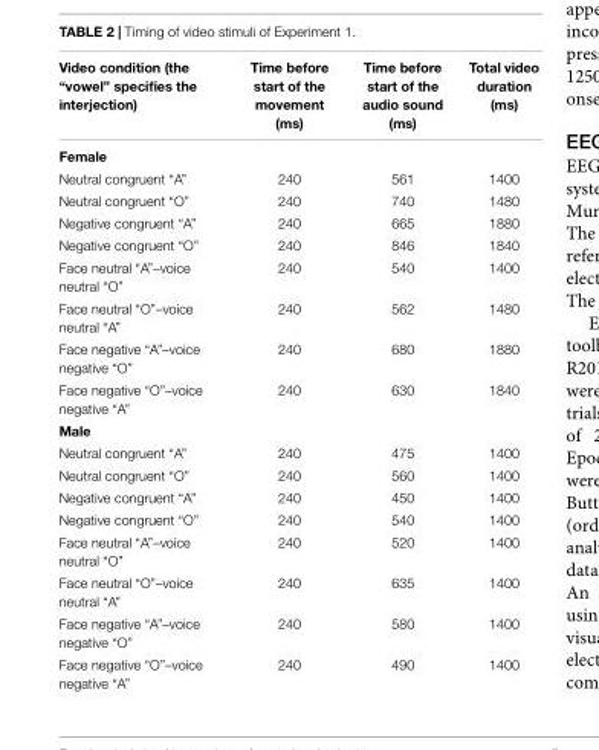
<table><thead><tr><td>Video condition (the “vowel” specifies the interjection)</td><td>Time before start of the movement (ms)</td><td>Time before start of the audio sound (ms)</td><td>Total video duration (ms)</td></tr></thead><tbody><tr><td colspan="4">Female</td></tr><tr><td>Neutral congruent “A”</td><td>240</td><td>561</td><td>1400</td></tr><tr><td>Neutral congruent “O”</td><td>240</td><td>740</td><td>1480</td></tr><tr><td>Negative congruent “A”</td><td>240</td><td>665</td><td>1880</td></tr><tr><td>Negative congruent “O”</td><td>240</td><td>846</td><td>1840</td></tr><tr><td>Face neutral “A”–voice neutral “O”</td><td>240</td><td>540</td><td>1400</td></tr><tr><td>Face neutral “O”–voice neutral “A”</td><td>240</td><td>562</td><td>1480</td></tr><tr><td>Face negative “A”–voice negative “O”</td><td>240</td><td>680</td><td>1880</td></tr><tr><td>Face negative “O”–voice negative “A”</td><td>240</td><td>630</td><td>1840</td></tr><tr><td colspan="4">Male</td></tr><tr><td>Neutral congruent “A”</td><td>240</td><td>475</td><td>1400</td></tr><tr><td>Neutral congruent “O”</td><td>240</td><td>560</td><td>1400</td></tr><tr><td>Negative congruent “A”</td><td>240</td><td>450</td><td>1400</td></tr><tr><td>Negative congruent “O”</td><td>240</td><td>540</td><td>1400</td></tr><tr><td>Face neutral “A”–voice neutral “O”</td><td>240</td><td>520</td><td>1400</td></tr><tr><td>Face neutral “O”–voice neutral “A”</td><td>240</td><td>635</td><td>1400</td></tr><tr><td>Face negative “A”–voice negative “O”</td><td>240</td><td>580</td><td>1400</td></tr><tr><td>Face negative “O”–voice negative “A”</td><td>240</td><td>490</td><td>1400</td></tr></tbody></table>